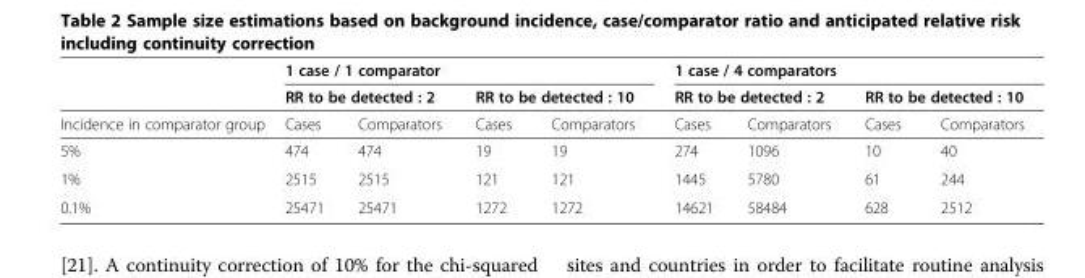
<table><thead><tr><td rowspan="3">Incidence in comparator group</td><td colspan="4">1 case / 1 comparator</td><td colspan="4">1 case / 4 comparators</td></tr><tr><td colspan="2">RR to be detected : 2</td><td colspan="2">RR to be detected : 10</td><td colspan="2">RR to be detected : 2</td><td colspan="2">RR to be detected : 10</td></tr><tr><td>Cases</td><td>Comparators</td><td>Cases</td><td>Comparators</td><td>Cases</td><td>Comparators</td><td>Cases</td><td>Comparators</td></tr></thead><tbody><tr><td>5%</td><td>474</td><td>474</td><td>19</td><td>19</td><td>274</td><td>1096</td><td>10</td><td>40</td></tr><tr><td>1%</td><td>2515</td><td>2515</td><td>121</td><td>121</td><td>1445</td><td>5780</td><td>61</td><td>244</td></tr><tr><td>0.1%</td><td>25471</td><td>25471</td><td>1272</td><td>1272</td><td>14621</td><td>58484</td><td>628</td><td>2512</td></tr></tbody></table>